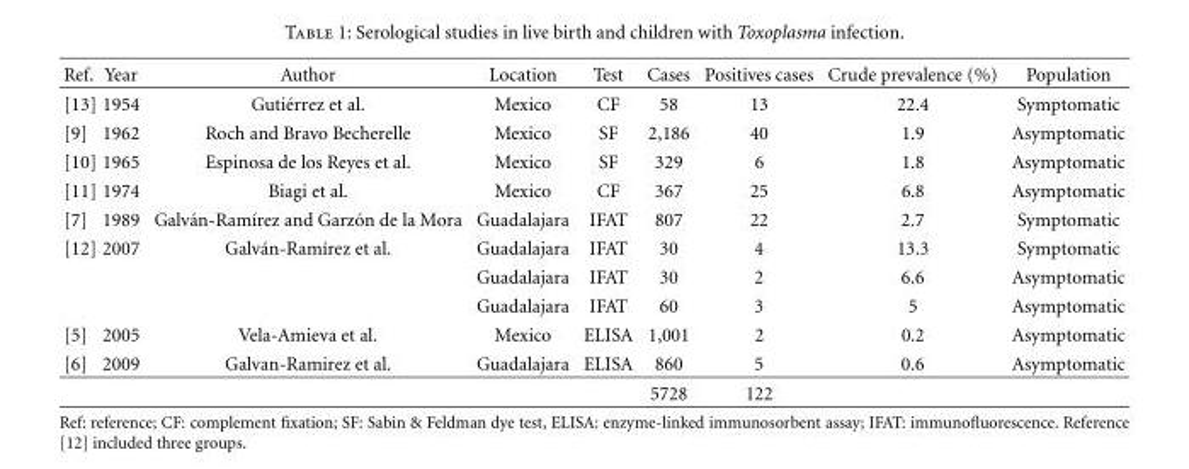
<table><thead><tr><td>Ref.</td><td>Year</td><td>Author</td><td>Location</td><td>Test</td><td>Cases</td><td>Positives cases</td><td>Crude prevalence (%)</td><td>Population</td></tr></thead><tbody><tr><td>[13]</td><td>1954</td><td>Guti´errez et al.</td><td>Mexico</td><td>CF</td><td>58</td><td>13</td><td>22.4</td><td>Symptomatic</td></tr><tr><td>[9]</td><td>1962</td><td>Roch and Bravo Becherelle</td><td>Mexico</td><td>SF</td><td>2,186</td><td>40</td><td>1.9</td><td>Asymptomatic</td></tr><tr><td>[10]</td><td>1965</td><td>Espinosa de los Reyes et al.</td><td>Mexico</td><td>SF</td><td>329</td><td>6</td><td>1.8</td><td>Asymptomatic</td></tr><tr><td>[11]</td><td>1974</td><td>Biagi et al.</td><td>Mexico</td><td>CF</td><td>367</td><td>25</td><td>6.8</td><td>Asymptomatic</td></tr><tr><td>[7]</td><td>1989</td><td>Galv´an-Ram´ırez and Garz´on de la Mora</td><td>Guadalajara</td><td>IFAT</td><td>807</td><td>22</td><td>2.7</td><td>Symptomatic</td></tr><tr><td rowspan="3">[12]</td><td>2007</td><td>Galv´an-Ram´ırez et al.</td><td>Guadalajara</td><td>IFAT</td><td>30</td><td>4</td><td>13.3</td><td>Symptomatic</td></tr><tr><td></td><td></td><td>Guadalajara</td><td>IFAT</td><td>30</td><td>2</td><td>6.6</td><td>Asymptomatic</td></tr><tr><td></td><td></td><td>Guadalajara</td><td>IFAT</td><td>60</td><td>3</td><td>5</td><td>Asymptomatic</td></tr><tr><td>[5]</td><td>2005</td><td>Vela-Amieva et al.</td><td>Mexico</td><td>ELISA</td><td>1,001</td><td>2</td><td>0.2</td><td>Asymptomatic</td></tr><tr><td rowspan="2">[6]</td><td>2009</td><td>Galvan-Ramirez et al.</td><td>Guadalajara</td><td>ELISA</td><td>860</td><td>5</td><td>0.6</td><td>Asymptomatic</td></tr><tr><td></td><td></td><td></td><td></td><td>5728</td><td>122</td><td></td><td></td></tr></tbody></table>